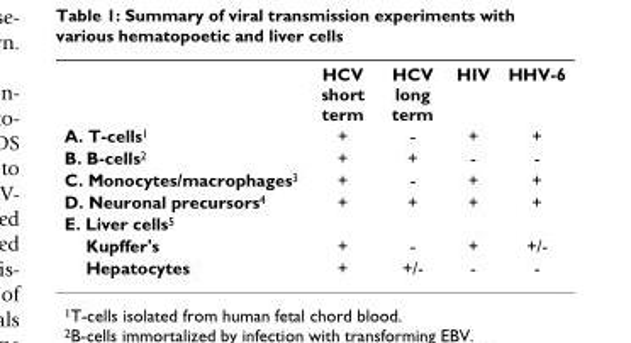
<table><thead><tr><td></td><td>HCV short term</td><td>HCV long term</td><td>HIV</td><td>HHV-6</td></tr></thead><tbody><tr><td>A. T-cells<sup>1</sup></td><td>+</td><td>-</td><td>+</td><td>+</td></tr><tr><td>B. B-cells<sup>2</sup></td><td>+</td><td>+</td><td>-</td><td>-</td></tr><tr><td>C. Monocytes/macrophages<sup>3</sup></td><td>+</td><td>-</td><td>+</td><td>+</td></tr><tr><td>D. Neuronal precursors<sup>4</sup></td><td>+</td><td>+</td><td>+</td><td>+</td></tr><tr><td colspan="5">E. Liver cells<sup>5</sup></td></tr><tr><td>Kupffer&#x27;s</td><td>+</td><td>-</td><td>+</td><td>+/-</td></tr><tr><td>Hepatocytes</td><td>+</td><td>+/-</td><td>-</td><td>-</td></tr></tbody></table>